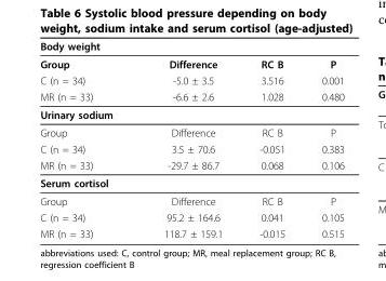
<table><thead><tr><td>Body weight</td><td></td><td></td><td></td></tr></thead><tbody><tr><td>Group</td><td>Difference</td><td>RC B</td><td>P</td></tr><tr><td>C (n = 34)</td><td>-5.0 ± 3.5</td><td>3.516</td><td>0.001</td></tr><tr><td>MR (n = 33)</td><td>-6.6 ± 2.6</td><td>1.028</td><td>0.480</td></tr><tr><td colspan="4">Urinary sodium</td></tr><tr><td>Group</td><td>Difference</td><td>RC B</td><td>P</td></tr><tr><td>C (n = 34)</td><td>3.5 ± 70.6</td><td>-0.051</td><td>0.383</td></tr><tr><td>MR (n = 33)</td><td>-29.7 ± 86.7</td><td>0.068</td><td>0.106</td></tr><tr><td colspan="4">Serum cortisol</td></tr><tr><td>Group</td><td>Difference</td><td>RC B</td><td>P</td></tr><tr><td>C (n = 34)</td><td>95.2 ± 164.6</td><td>0.041</td><td>0.105</td></tr><tr><td>MR (n = 33)</td><td>118.7 ± 159.1</td><td>-0.015</td><td>0.515</td></tr></tbody></table>